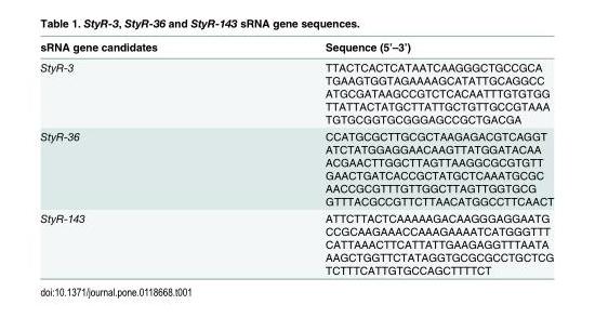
<table><thead><tr><td>sRNA gene candidates</td><td>Sequence (5’–3’)</td></tr></thead><tbody><tr><td>StyR-3</td><td>TTACTCACTCATAATCAAGGGCTGCCGCA TGAAGTGGTAGAAAAGCATATTGCAGGCC ATGCGATAAGCCGTCTCACAATTTGTGTGG TTATTACTATGCTTATTGCTGTTGCCGTAAA TGTGCGGTGCGGGAGCCGCTGACGA</td></tr><tr><td>StyR-36</td><td>CCATGCGCTTGCGCTAAGAGACGTCAGGT ATCTATGGAGGAACAAGTTATGGATACAA ACGAACTTGGCTTAGTTAAGGCGCGTGTT GAACTGATCACCGCTATGCTCAAATGCGC AACCGCGTTTGTTGGCTTAGTTGGTGCG GTTTACGCCGTTCTTAACATGGCCTTCAACT</td></tr><tr><td>StyR-143</td><td>ATTCTTACTCAAAAAGACAAGGGAGGAATG CCGCAAGAAACCAAAGAAAATCATGGGTTT CATTAAACTTCATTATTGAAGAGGTTTAATA AAGCTGGTTCTATAGGTGCGCGCCTGCTCG TCTTTCATTGTGCCAGCTTTTCT</td></tr></tbody></table>